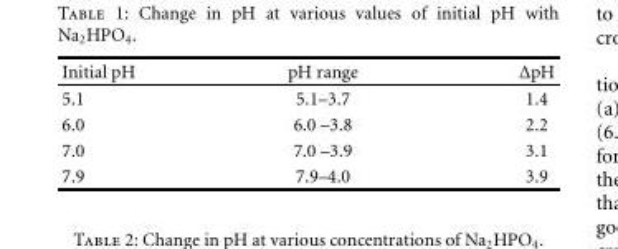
<table><thead><tr><td>Initial pH</td><td>pH range</td><td>ΔpH</td></tr></thead><tbody><tr><td>5.1</td><td>5.1–3.7</td><td>1.4</td></tr><tr><td>6.0</td><td>6.0 –3.8</td><td>2.2</td></tr><tr><td>7.0</td><td>7.0 –3.9</td><td>3.1</td></tr><tr><td>7.9</td><td>7.9–4.0</td><td>3.9</td></tr></tbody></table>